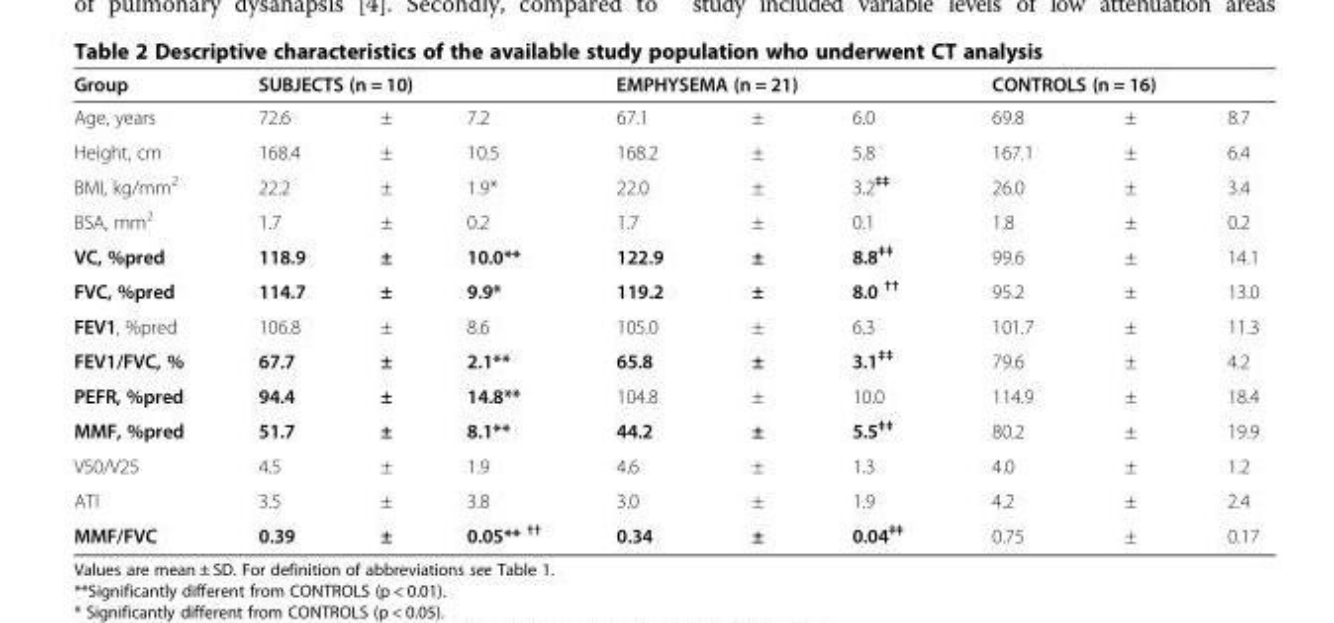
<table><thead><tr><td rowspan="2">Group Age, years</td><td colspan="3">SUBJECTS (n = 10)</td><td colspan="3">EMPHYSEMA (n = 21)</td><td colspan="3">CONTROLS (n = 16)</td></tr><tr><td>72.6</td><td>±</td><td>7.2</td><td>67.1</td><td>±</td><td>6.0</td><td>69.8</td><td>±</td><td>8.7</td></tr></thead><tbody><tr><td>Height, cm</td><td>168.4</td><td>±</td><td>10.5</td><td>168.2</td><td>±</td><td>5.8</td><td>167.1</td><td>±</td><td>6.4</td></tr><tr><td>BMI, kg/mm<sup>2</sup></td><td>22.2</td><td>±</td><td>1.9*</td><td>22.0</td><td>±</td><td>3.2<sup>‡‡</sup></td><td>26.0</td><td>±</td><td>3.4</td></tr><tr><td>BSA, mm<sup>2</sup></td><td>1.7</td><td>±</td><td>0.2</td><td>1.7</td><td>±</td><td>0.1</td><td>1.8</td><td>±</td><td>0.2</td></tr><tr><td>VC, %pred</td><td>118.9</td><td>±</td><td>10.0**</td><td>122.9</td><td>±</td><td>8.8<sup>‡‡</sup></td><td>99.6</td><td>±</td><td>14.1</td></tr><tr><td>FVC, %pred</td><td>114.7</td><td>±</td><td>9.9*</td><td>119.2</td><td>±</td><td>8.0 <sup>††</sup></td><td>95.2</td><td>±</td><td>13.0</td></tr><tr><td>FEV1, %pred</td><td>106.8</td><td>±</td><td>8.6</td><td>105.0</td><td>±</td><td>6.3</td><td>101.7</td><td>±</td><td>11.3</td></tr><tr><td>FEV1/FVC, %</td><td>67.7</td><td>±</td><td>2.1**</td><td>65.8</td><td>±</td><td>3.1<sup>‡‡</sup></td><td>79.6</td><td>±</td><td>4.2</td></tr><tr><td>PEFR, %pred</td><td>94.4</td><td>±</td><td>14.8**</td><td>104.8</td><td>±</td><td>10.0</td><td>114.9</td><td>±</td><td>18.4</td></tr><tr><td>MMF, %pred</td><td>51.7</td><td>±</td><td>8.1**</td><td>44.2</td><td>±</td><td>5.5<sup>‡‡</sup></td><td>80.2</td><td>±</td><td>19.9</td></tr><tr><td>V50/V25</td><td>4.5</td><td>±</td><td>1.9</td><td>4.6</td><td>±</td><td>1.3</td><td>4.0</td><td>±</td><td>1.2</td></tr><tr><td>ATI</td><td>3.5</td><td>±</td><td>3.8</td><td>3.0</td><td>±</td><td>1.9</td><td>4.2</td><td>±</td><td>2.4</td></tr><tr><td>MMF/FVC</td><td>0.39</td><td>±</td><td>0.05** <sup>††</sup></td><td>0.34</td><td>±</td><td>0.04<sup>‡‡</sup></td><td>0.75</td><td>±</td><td>0.17</td></tr></tbody></table>